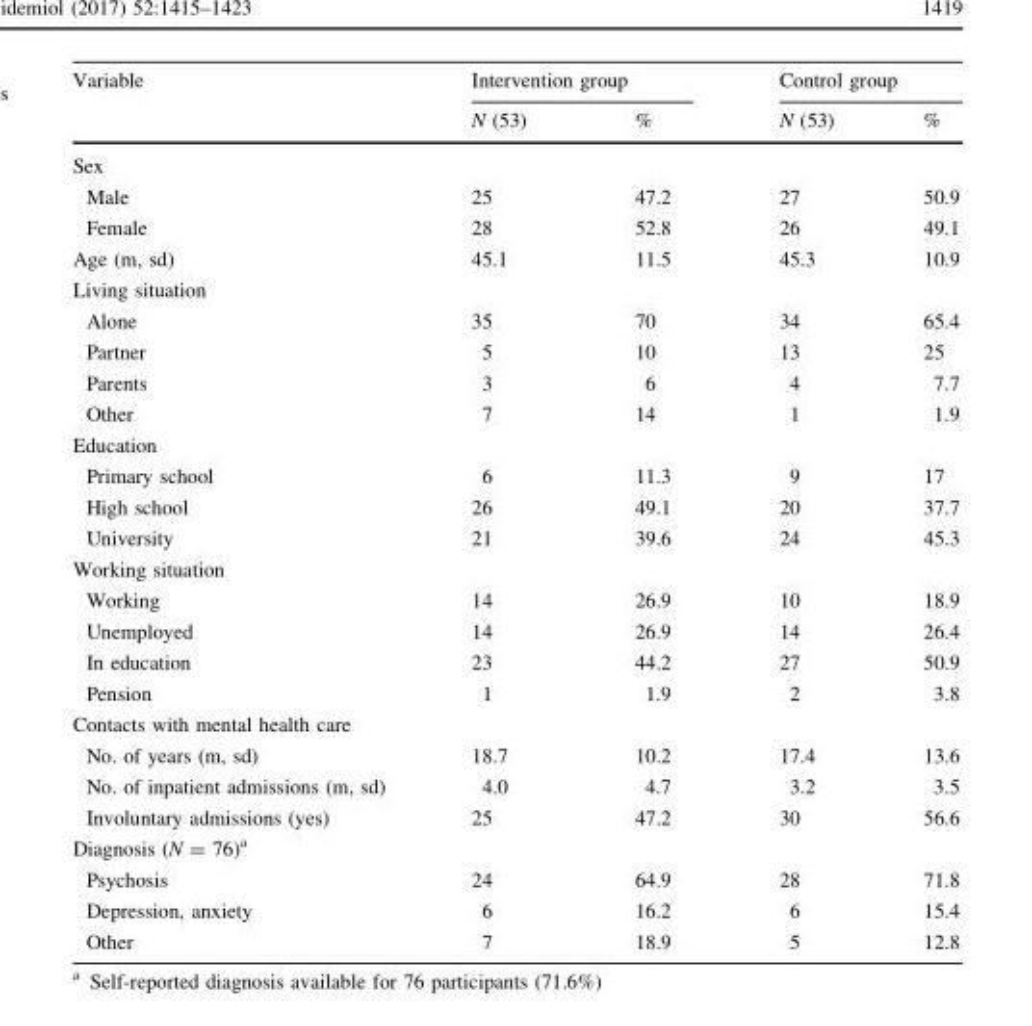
<table><thead><tr><td rowspan="2">Variable</td><td colspan="2">Intervention group</td><td colspan="2">Control group</td></tr><tr><td>N (53)</td><td>%</td><td>N (53)</td><td>%</td></tr></thead><tbody><tr><td colspan="5">Sex</td></tr><tr><td>Male</td><td>25</td><td>47.2</td><td>27</td><td>50.9</td></tr><tr><td>Female</td><td>28</td><td>52.8</td><td>26</td><td>49.1</td></tr><tr><td>Age (m, sd)</td><td>45.1</td><td>11.5</td><td>45.3</td><td>10.9</td></tr><tr><td colspan="5">Living situation</td></tr><tr><td>Alone</td><td>35</td><td>70</td><td>34</td><td>65.4</td></tr><tr><td>Partner</td><td>5</td><td>10</td><td>13</td><td>25</td></tr><tr><td>Parents</td><td>3</td><td>6</td><td>4</td><td>7.7</td></tr><tr><td>Other</td><td>7</td><td>14</td><td>1</td><td>1.9</td></tr><tr><td colspan="5">Education</td></tr><tr><td>Primary school</td><td>6</td><td>11.3</td><td>9</td><td>17</td></tr><tr><td>High school</td><td>26</td><td>49.1</td><td>20</td><td>37.7</td></tr><tr><td>University</td><td>21</td><td>39.6</td><td>24</td><td>45.3</td></tr><tr><td colspan="5">Working situation</td></tr><tr><td>Working</td><td>14</td><td>26.9</td><td>10</td><td>18.9</td></tr><tr><td>Unemployed</td><td>14</td><td>26.9</td><td>14</td><td>26.4</td></tr><tr><td>In education</td><td>23</td><td>44.2</td><td>27</td><td>50.9</td></tr><tr><td>Pension</td><td>1</td><td>1.9</td><td>2</td><td>3.8</td></tr><tr><td colspan="5">Contacts with mental health care</td></tr><tr><td>No. of years (m, sd)</td><td>18.7</td><td>10.2</td><td>17.4</td><td>13.6</td></tr><tr><td>No. of inpatient admissions (m, sd)</td><td>4.0</td><td>4.7</td><td>3.2</td><td>3.5</td></tr><tr><td>Involuntary admissions (yes)</td><td>25</td><td>47.2</td><td>30</td><td>56.6</td></tr><tr><td colspan="5">Diagnosis (N = 76)<sup>a</sup></td></tr><tr><td>Psychosis</td><td>24</td><td>64.9</td><td>28</td><td>71.8</td></tr><tr><td>Depression, anxiety</td><td>6</td><td>16.2</td><td>6</td><td>15.4</td></tr><tr><td>Other</td><td>7</td><td>18.9</td><td>5</td><td>12.8</td></tr></tbody></table>